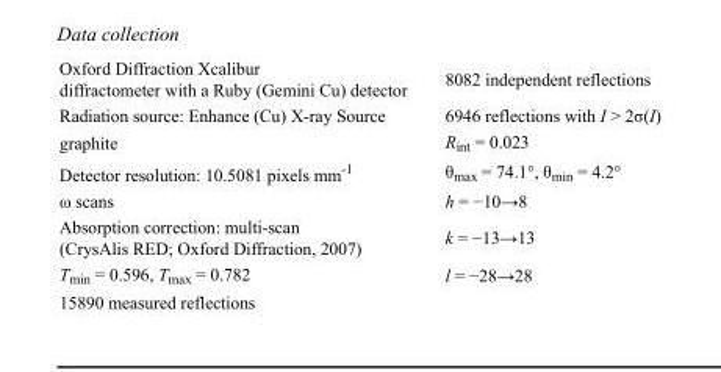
<table><tbody><tr><td>Oxford Diffraction Xcalibur diffractometer with a Ruby (Gemini Cu) detector</td><td>8082 independent reflections</td></tr><tr><td>Radiation source: Enhance (Cu) X-ray Source</td><td>6946 reflections with I &gt; 2σ(I)</td></tr><tr><td>graphite</td><td>R<sub>int</sub> = 0.023</td></tr><tr><td>Detector resolution: 10.5081 pixels mm<sup>-1</sup></td><td>θ<sub>max</sub> = 74.1°, θ<sub>min</sub> = 4.2°</td></tr><tr><td>ω scans</td><td>h = −10→8</td></tr><tr><td>Absorption correction: multi-scan (CrysAlis RED; Oxford Diffraction, 2007)</td><td>k = −13→13</td></tr><tr><td>T<sub>min</sub> = 0.596, T<sub>max</sub> = 0.782</td><td>l = −28→28</td></tr><tr><td>15890 measured reflections</td><td></td></tr></tbody></table>